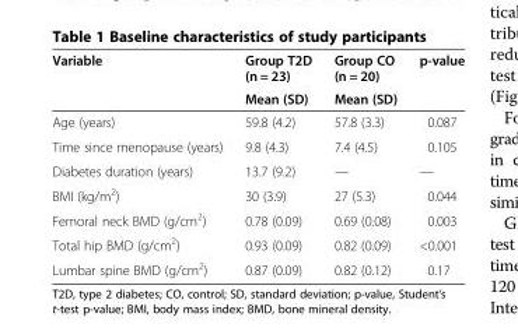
<table><thead><tr><td rowspan="2">Variable</td><td rowspan="2">Group T2D (n = 23) Mean (SD)</td><td rowspan="2">Group CO (n = 20) Mean (SD)</td><td rowspan="2">p-value</td></tr><tr></tr></thead><tbody><tr><td>Age (years)</td><td>59.8 (4.2)</td><td>57.8 (3.3)</td><td>0.087</td></tr><tr><td>Time since menopause (years)</td><td>9.8 (4.3)</td><td>7.4 (4.5)</td><td>0.105</td></tr><tr><td>Diabetes duration (years)</td><td>13.7 (9.2)</td><td>—</td><td>—</td></tr><tr><td>BMI (kg/m<sup>2</sup>)</td><td>30 (3.9)</td><td>27 (5.3)</td><td>0.044</td></tr><tr><td>Femoral neck BMD (g/cm<sup>2</sup>)</td><td>0.78 (0.09)</td><td>0.69 (0.08)</td><td>0.003</td></tr><tr><td>Total hip BMD (g/cm<sup>2</sup>)</td><td>0.93 (0.09)</td><td>0.82 (0.09)</td><td>&lt;0.001</td></tr><tr><td>Lumbar spine BMD (g/cm<sup>2</sup>)</td><td>0.87 (0.09)</td><td>0.82 (0.12)</td><td>0.17</td></tr></tbody></table>